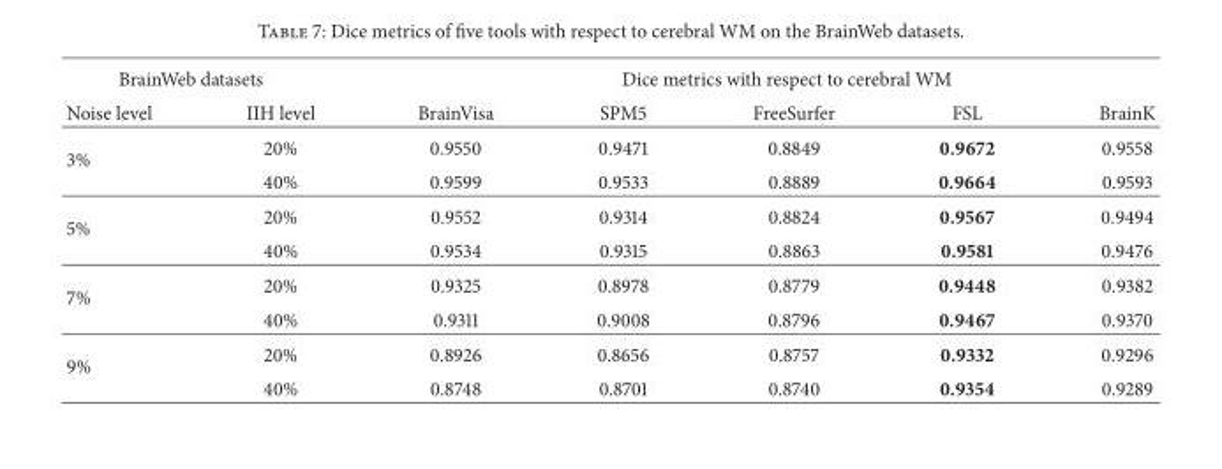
<table><thead><tr><td colspan="2">BrainWeb datasets</td><td colspan="5">Dice metrics with respect to cerebral WM</td></tr><tr><td>Noise level</td><td>IIH level</td><td>BrainVisa</td><td>SPM5</td><td>FreeSurfer</td><td>FSL</td><td>BrainK</td></tr></thead><tbody><tr><td rowspan="2">3%</td><td>20%</td><td>0.9550</td><td>0.9471</td><td>0.8849</td><td>0.9672</td><td>0.9558</td></tr><tr><td>40%</td><td>0.9599</td><td>0.9533</td><td>0.8889</td><td>0.9664</td><td>0.9593</td></tr><tr><td rowspan="2">5%</td><td>20%</td><td>0.9552</td><td>0.9314</td><td>0.8824</td><td>0.9567</td><td>0.9494</td></tr><tr><td>40%</td><td>0.9534</td><td>0.9315</td><td>0.8863</td><td>0.9581</td><td>0.9476</td></tr><tr><td rowspan="2">7%</td><td>20%</td><td>0.9325</td><td>0.8978</td><td>0.8779</td><td>0.9448</td><td>0.9382</td></tr><tr><td>40%</td><td>0.9311</td><td>0.9008</td><td>0.8796</td><td>0.9467</td><td>0.9370</td></tr><tr><td rowspan="2">9%</td><td>20%</td><td>0.8926</td><td>0.8656</td><td>0.8757</td><td>0.9332</td><td>0.9296</td></tr><tr><td>40%</td><td>0.8748</td><td>0.8701</td><td>0.8740</td><td>0.9354</td><td>0.9289</td></tr></tbody></table>